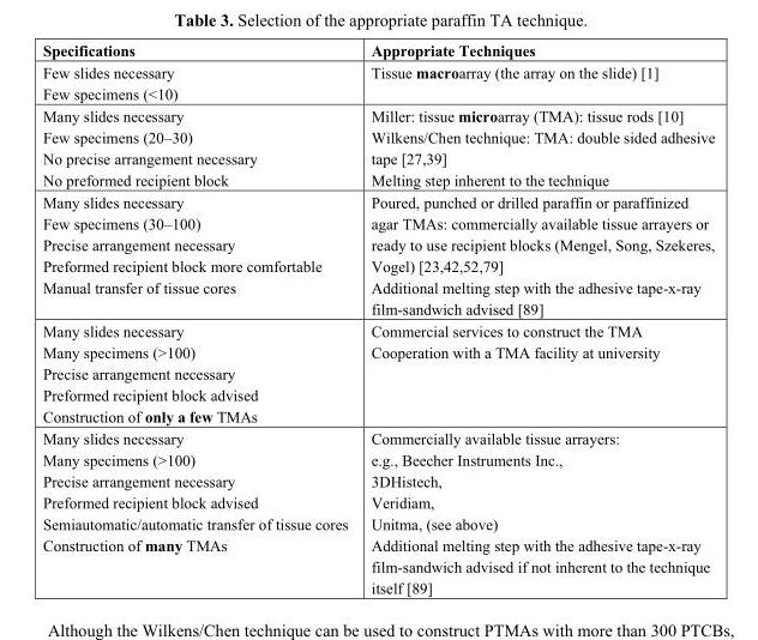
<table><thead><tr><td>Specifications</td><td>Appropriate Techniques</td></tr></thead><tbody><tr><td>Few slides necessary Few specimens (&lt;10)</td><td>Tissue macroarray (the array on the slide) [1]</td></tr><tr><td>Many slides necessary Few specimens (20–30) No precise arrangement necessary No preformed recipient block</td><td>Miller: tissue microarray (TMA): tissue rods [10] Wilkens/Chen technique: TMA: double sided adhesive tape [27,39] Melting step inherent to the technique</td></tr><tr><td>Many slides necessary Few specimens (30–100) Precise arrangement necessary Preformed recipient block more comfortable Manual transfer of tissue cores</td><td>Poured, punched or drilled paraffin or paraffinized agar TMAs: commercially available tissue arrayers or ready to use recipient blocks (Mengel, Song, Szekeres, Vogel) [23,42,52,79] Additional melting step with the adhesive tape-x-ray film-sandwich advised [89]</td></tr><tr><td>Many slides necessary Many specimens (&gt;100) Precise arrangement necessary Preformed recipient block advised Construction of only a few TMAs</td><td>Commercial services to construct the TMA Cooperation with a TMA facility at university</td></tr><tr><td>Many slides necessary Many specimens (&gt;100) Precise arrangement necessary Preformed recipient block advised Semiautomatic/automatic transfer of tissue cores Construction of many TMAs</td><td>Commercially available tissue arrayers: e.g., Beecher Instruments Inc., 3DHistech, Veridiam, Unitma, (see above) Additional melting step with the adhesive tape-x-ray film-sandwich advised if not inherent to the technique itself [89]</td></tr></tbody></table>